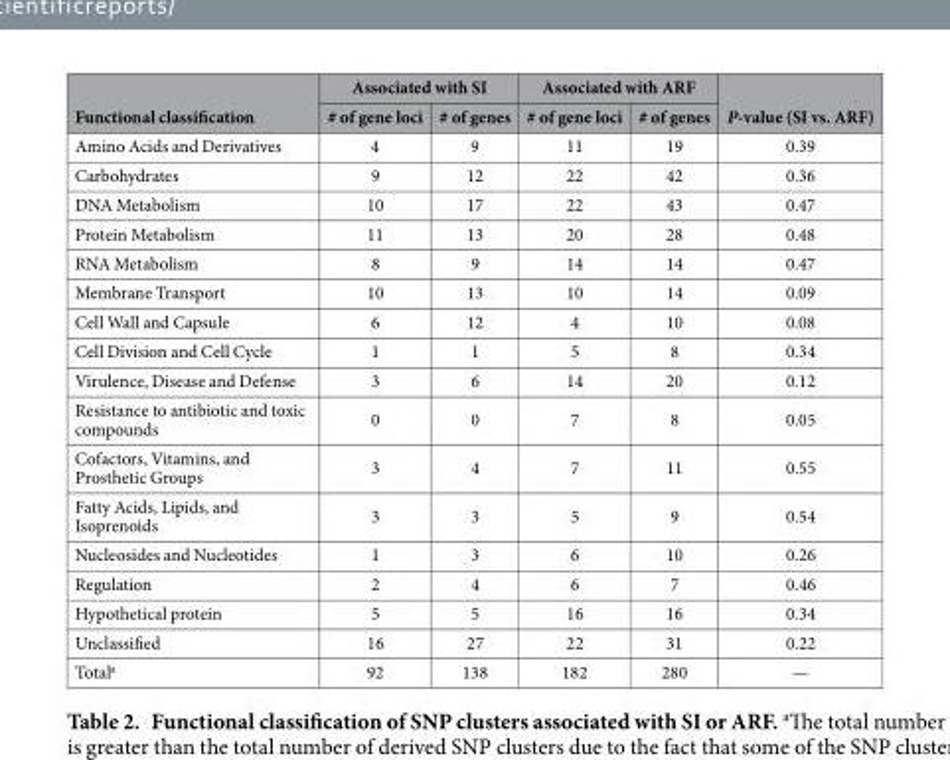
<table><thead><tr><td rowspan="2">Functional classification</td><td colspan="2">Associated with SI</td><td colspan="2">Associated with ARF</td><td rowspan="2">P-value (SI vs. ARF)</td></tr><tr><td># of gene loci</td><td># of genes</td><td># of gene loci</td><td># of genes</td></tr></thead><tbody><tr><td>Amino Acids and Derivatives</td><td>4</td><td>9</td><td>11</td><td>19</td><td>0.39</td></tr><tr><td>Carbohydrates</td><td>9</td><td>12</td><td>22</td><td>42</td><td>0.36</td></tr><tr><td>DNA Metabolism</td><td>10</td><td>17</td><td>22</td><td>43</td><td>0.47</td></tr><tr><td>Protein Metabolism</td><td>11</td><td>13</td><td>20</td><td>28</td><td>0.48</td></tr><tr><td>RNA Metabolism</td><td>8</td><td>9</td><td>14</td><td>14</td><td>0.47</td></tr><tr><td>Membrane Transport</td><td>10</td><td>13</td><td>10</td><td>14</td><td>0.09</td></tr><tr><td>Cell Wall and Capsule</td><td>6</td><td>12</td><td>4</td><td>10</td><td>0.08</td></tr><tr><td>Cell Division and Cell Cycle</td><td>1</td><td>1</td><td>5</td><td>8</td><td>0.34</td></tr><tr><td>Virulence, Disease and Defense</td><td>3</td><td>6</td><td>14</td><td>20</td><td>0.12</td></tr><tr><td>Resistance to antibiotic and toxic compounds</td><td>0</td><td>0</td><td>7</td><td>8</td><td>0.05</td></tr><tr><td>Cofactors, Vitamins, and Prosthetic Groups</td><td>3</td><td>4</td><td>7</td><td>11</td><td>0.55</td></tr><tr><td>Fatty Acids, Lipids, and Isoprenoids</td><td>3</td><td>3</td><td>5</td><td>9</td><td>0.54</td></tr><tr><td>Nucleosides and Nucleotides</td><td>1</td><td>3</td><td>6</td><td>10</td><td>0.26</td></tr><tr><td>Regulation</td><td>2</td><td>4</td><td>6</td><td>7</td><td>0.46</td></tr><tr><td>Hypothetical protein</td><td>5</td><td>5</td><td>16</td><td>16</td><td>0.34</td></tr><tr><td>Unclassified</td><td>16</td><td>27</td><td>22</td><td>31</td><td>0.22</td></tr><tr><td>Total<sup>a</sup></td><td>92</td><td>138</td><td>182</td><td>280</td><td>—</td></tr></tbody></table>